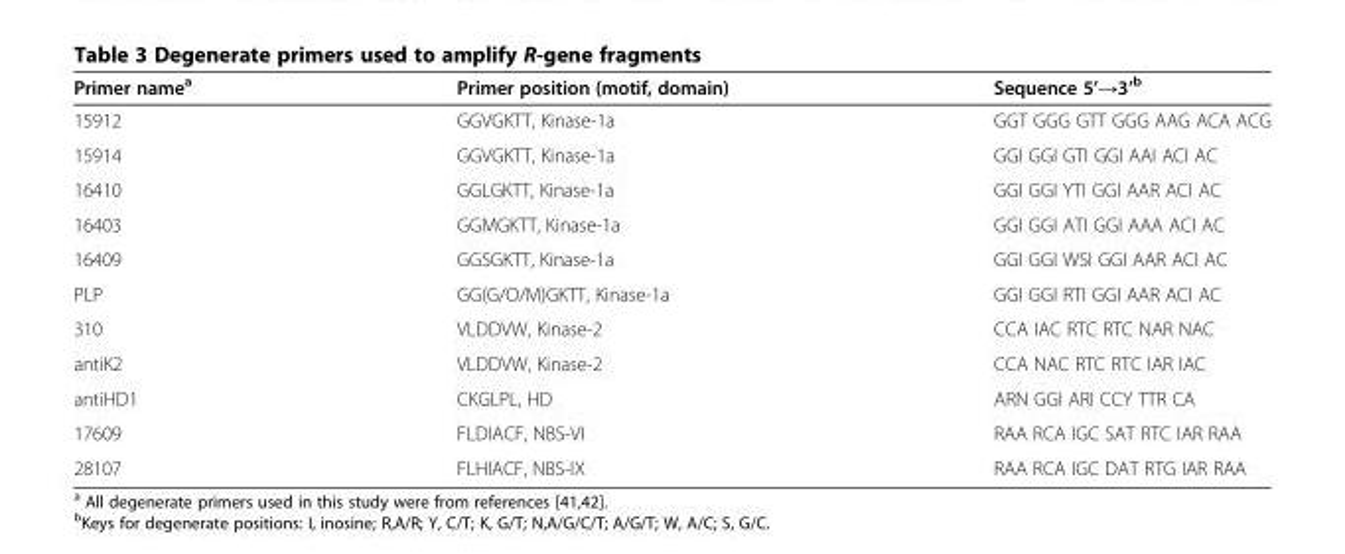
<table><thead><tr><td>Primer name<sup>a</sup></td><td>Primer position (motif, domain)</td><td>Sequence 5’→3’<sup>b</sup></td></tr></thead><tbody><tr><td>15912</td><td>GGVGKTT, Kinase-1a</td><td>GGT GGG GTT GGG AAG ACA ACG</td></tr><tr><td>15914</td><td>GGVGKTT, Kinase-1a</td><td>GGI GGI GTI GGI AAI ACI AC</td></tr><tr><td>16410</td><td>GGLGKTT, Kinase-1a</td><td>GGI GGI YTI GGI AAR ACI AC</td></tr><tr><td>16403</td><td>GGMGKTT, Kinase-1a</td><td>GGI GGI ATI GGI AAA ACI AC</td></tr><tr><td>16409</td><td>GGSGKTT, Kinase-1a</td><td>GGI GGI WSI GGI AAR ACI AC</td></tr><tr><td>PLP</td><td>GG(G/O/M)GKTT, Kinase-1a</td><td>GGI GGI RTI GGI AAR ACI AC</td></tr><tr><td>310</td><td>VLDDVW, Kinase-2</td><td>CCA IAC RTC RTC NAR NAC</td></tr><tr><td>antiK2</td><td>VLDDVW, Kinase-2</td><td>CCA NAC RTC RTC IAR IAC</td></tr><tr><td>antiHD1</td><td>CKGLPL, HD</td><td>ARN GGI ARI CCY TTR CA</td></tr><tr><td>17609</td><td>FLDIACF, NBS-VI</td><td>RAA RCA IGC SAT RTC IAR RAA</td></tr><tr><td>28107</td><td>FLHIACF, NBS-IX</td><td>RAA RCA IGC DAT RTG IAR RAA</td></tr></tbody></table>